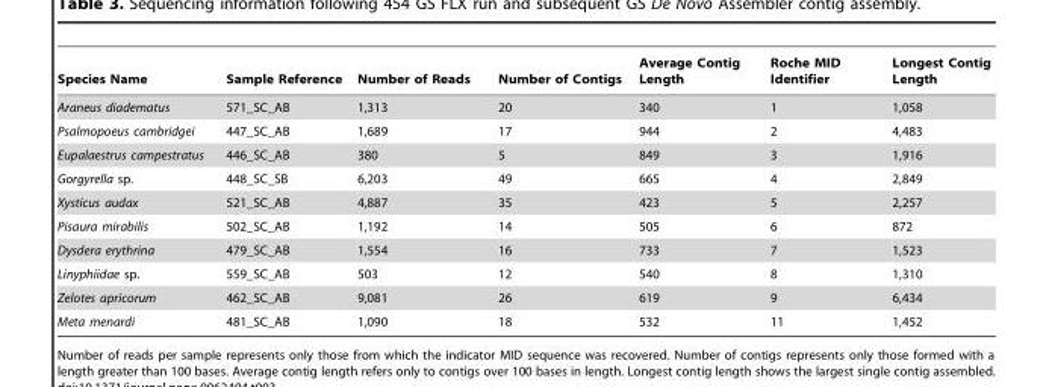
<table><thead><tr><td>Species Name</td><td>Sample Reference</td><td>Number of Reads</td><td>Number of Contigs</td><td>Average Contig Length</td><td>Roche MID Identifier</td><td>Longest Contig Length</td></tr></thead><tbody><tr><td>Araneus diadematus</td><td>571_SC_AB</td><td>1,313</td><td>20</td><td>340</td><td>1</td><td>1,058</td></tr><tr><td>Psalmopoeus cambridgei</td><td>447_SC_AB</td><td>1,689</td><td>17</td><td>944</td><td>2</td><td>4,483</td></tr><tr><td>Eupalaestrus campestratus</td><td>446_SC_AB</td><td>380</td><td>5</td><td>849</td><td>3</td><td>1,916</td></tr><tr><td>Gorgyrella sp.</td><td>448_SC_SB</td><td>6,203</td><td>49</td><td>665</td><td>4</td><td>2,849</td></tr><tr><td>Xysticus audax</td><td>521_SC_AB</td><td>4,887</td><td>35</td><td>423</td><td>5</td><td>2,257</td></tr><tr><td>Pisaura mirabilis</td><td>502_SC_AB</td><td>1,192</td><td>14</td><td>505</td><td>6</td><td>872</td></tr><tr><td>Dysdera erythrina</td><td>479_SC_AB</td><td>1,554</td><td>16</td><td>733</td><td>7</td><td>1,523</td></tr><tr><td>Linyphiidae sp.</td><td>559_SC_AB</td><td>503</td><td>12</td><td>540</td><td>8</td><td>1,310</td></tr><tr><td>Zelotes apricorum</td><td>462_SC_AB</td><td>9,081</td><td>26</td><td>619</td><td>9</td><td>6,434</td></tr><tr><td>Meta menardi</td><td>481_SC_AB</td><td>1,090</td><td>18</td><td>532</td><td>11</td><td>1,452</td></tr></tbody></table>